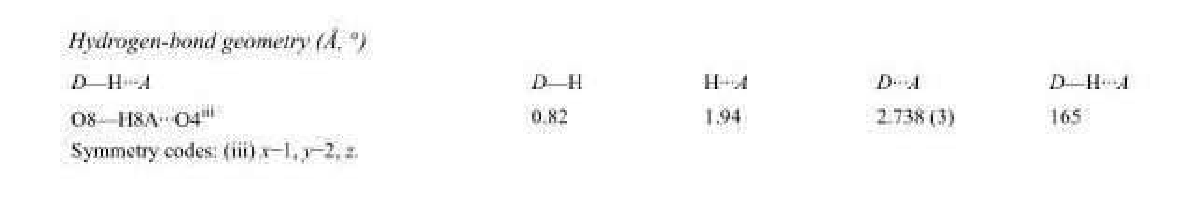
<table><tbody><tr><td>D—H···A</td><td>D—H</td><td>H···A</td><td>D···A</td><td>D—H···A</td></tr><tr><td>O8—H8A···O4<sup>iii</sup></td><td>0.82</td><td>1.94</td><td>2.738 (3)</td><td>165</td></tr></tbody></table>